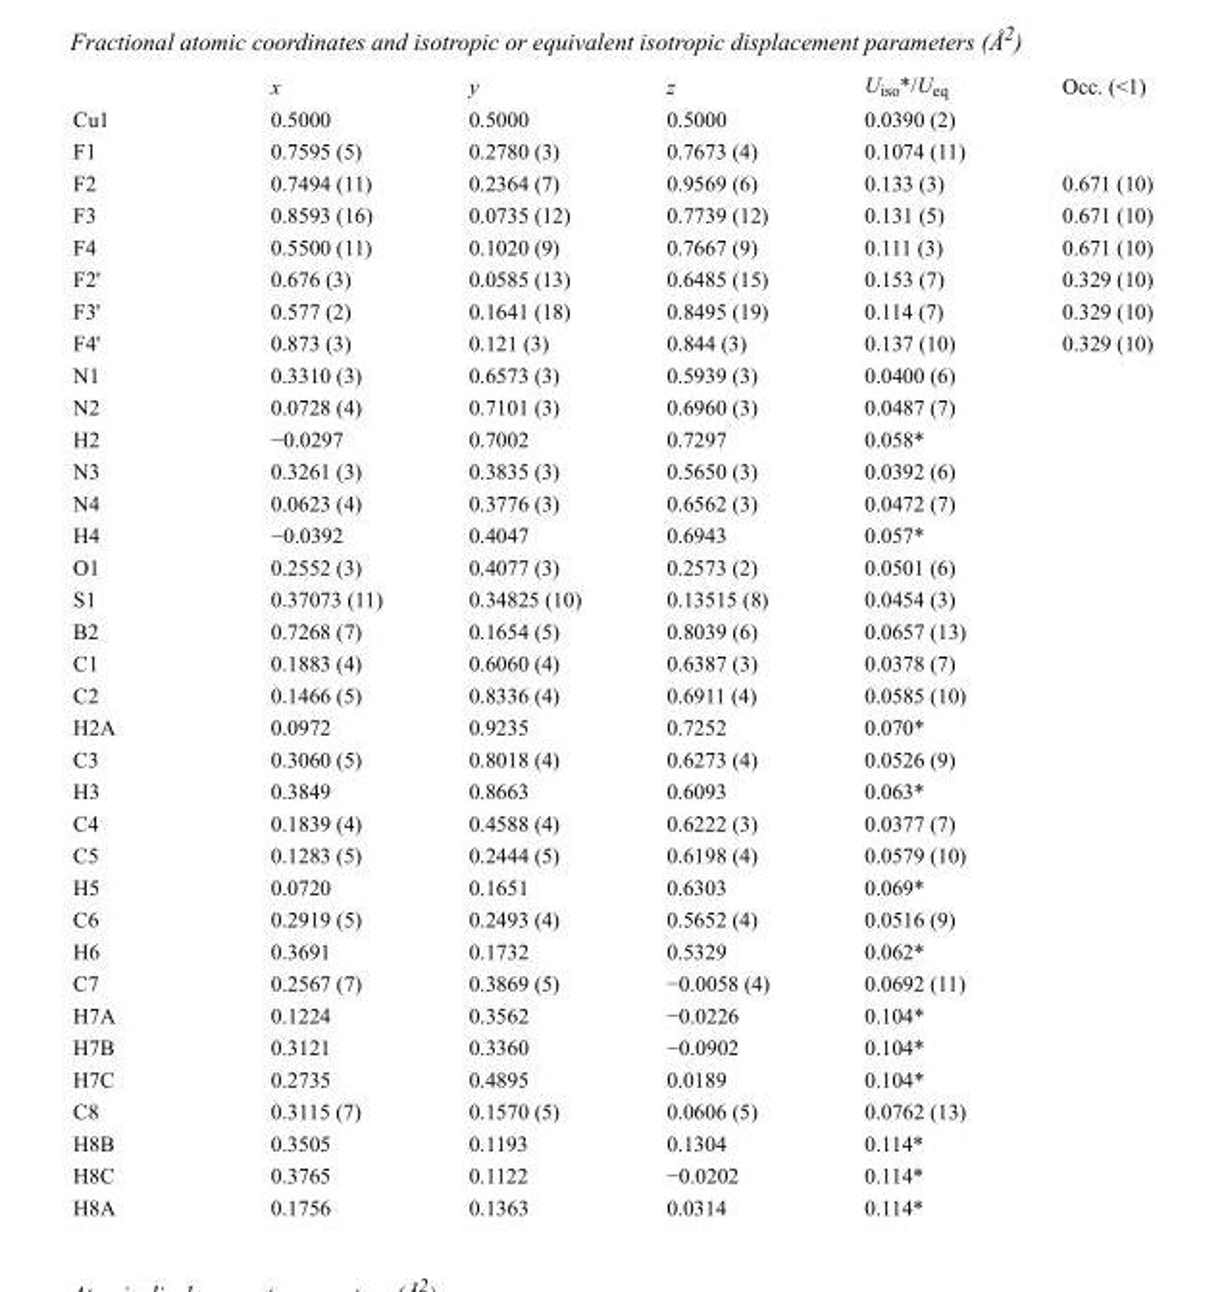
<table><thead><tr><td></td><td>x</td><td>y</td><td>z</td><td>U<sub>iso</sub>*/U<sub>eq</sub></td><td>Occ. (&lt;1)</td></tr></thead><tbody><tr><td>Cu1</td><td>0.5000</td><td>0.5000</td><td>0.5000</td><td>0.0390 (2)</td><td></td></tr><tr><td>F1</td><td>0.7595 (5)</td><td>0.2780 (3)</td><td>0.7673 (4)</td><td>0.1074 (11)</td><td></td></tr><tr><td>F2</td><td>0.7494 (11)</td><td>0.2364 (7)</td><td>0.9569 (6)</td><td>0.133 (3)</td><td>0.671 (10)</td></tr><tr><td>F3</td><td>0.8593 (16)</td><td>0.0735 (12)</td><td>0.7739 (12)</td><td>0.131 (5)</td><td>0.671 (10)</td></tr><tr><td>F4</td><td>0.5500 (11)</td><td>0.1020 (9)</td><td>0.7667 (9)</td><td>0.111 (3)</td><td>0.671 (10)</td></tr><tr><td>F2&#x27;</td><td>0.676 (3)</td><td>0.0585 (13)</td><td>0.6485 (15)</td><td>0.153 (7)</td><td>0.329 (10)</td></tr><tr><td>F3&#x27;</td><td>0.577 (2)</td><td>0.1641 (18)</td><td>0.8495 (19)</td><td>0.114 (7)</td><td>0.329 (10)</td></tr><tr><td>F4&#x27;</td><td>0.873 (3)</td><td>0.121 (3)</td><td>0.844 (3)</td><td>0.137 (10)</td><td>0.329 (10)</td></tr><tr><td>N1</td><td>0.3310 (3)</td><td>0.6573 (3)</td><td>0.5939 (3)</td><td>0.0400 (6)</td><td></td></tr><tr><td>N2</td><td>0.0728 (4)</td><td>0.7101 (3)</td><td>0.6960 (3)</td><td>0.0487 (7)</td><td></td></tr><tr><td>H2</td><td>−0.0297</td><td>0.7002</td><td>0.7297</td><td>0.058*</td><td></td></tr><tr><td>N3</td><td>0.3261 (3)</td><td>0.3835 (3)</td><td>0.5650 (3)</td><td>0.0392 (6)</td><td></td></tr><tr><td>N4</td><td>0.0623 (4)</td><td>0.3776 (3)</td><td>0.6562 (3)</td><td>0.0472 (7)</td><td></td></tr><tr><td>H4</td><td>−0.0392</td><td>0.4047</td><td>0.6943</td><td>0.057*</td><td></td></tr><tr><td>O1</td><td>0.2552 (3)</td><td>0.4077 (3)</td><td>0.2573 (2)</td><td>0.0501 (6)</td><td></td></tr><tr><td>S1</td><td>0.37073 (11)</td><td>0.34825 (10)</td><td>0.13515 (8)</td><td>0.0454 (3)</td><td></td></tr><tr><td>B2</td><td>0.7268 (7)</td><td>0.1654 (5)</td><td>0.8039 (6)</td><td>0.0657 (13)</td><td></td></tr><tr><td>C1</td><td>0.1883 (4)</td><td>0.6060 (4)</td><td>0.6387 (3)</td><td>0.0378 (7)</td><td></td></tr><tr><td>C2</td><td>0.1466 (5)</td><td>0.8336 (4)</td><td>0.6911 (4)</td><td>0.0585 (10)</td><td></td></tr><tr><td>H2A</td><td>0.0972</td><td>0.9235</td><td>0.7252</td><td>0.070*</td><td></td></tr><tr><td>C3</td><td>0.3060 (5)</td><td>0.8018 (4)</td><td>0.6273 (4)</td><td>0.0526 (9)</td><td></td></tr><tr><td>H3</td><td>0.3849</td><td>0.8663</td><td>0.6093</td><td>0.063*</td><td></td></tr><tr><td>C4</td><td>0.1839 (4)</td><td>0.4588 (4)</td><td>0.6222 (3)</td><td>0.0377 (7)</td><td></td></tr><tr><td>C5</td><td>0.1283 (5)</td><td>0.2444 (5)</td><td>0.6198 (4)</td><td>0.0579 (10)</td><td></td></tr><tr><td>H5</td><td>0.0720</td><td>0.1651</td><td>0.6303</td><td>0.069*</td><td></td></tr><tr><td>C6</td><td>0.2919 (5)</td><td>0.2493 (4)</td><td>0.5652 (4)</td><td>0.0516 (9)</td><td></td></tr><tr><td>H6</td><td>0.3691</td><td>0.1732</td><td>0.5329</td><td>0.062*</td><td></td></tr><tr><td>C7</td><td>0.2567 (7)</td><td>0.3869 (5)</td><td>−0.0058 (4)</td><td>0.0692 (11)</td><td></td></tr><tr><td>H7A</td><td>0.1224</td><td>0.3562</td><td>−0.0226</td><td>0.104*</td><td></td></tr><tr><td>H7B</td><td>0.3121</td><td>0.3360</td><td>−0.0902</td><td>0.104*</td><td></td></tr><tr><td>H7C</td><td>0.2735</td><td>0.4895</td><td>0.0189</td><td>0.104*</td><td></td></tr><tr><td>C8</td><td>0.3115 (7)</td><td>0.1570 (5)</td><td>0.0606 (5)</td><td>0.0762 (13)</td><td></td></tr><tr><td>H8B</td><td>0.3505</td><td>0.1193</td><td>0.1304</td><td>0.114*</td><td></td></tr><tr><td>H8C</td><td>0.3765</td><td>0.1122</td><td>−0.0202</td><td>0.114*</td><td></td></tr><tr><td>H8A</td><td>0.1756</td><td>0.1363</td><td>0.0314</td><td>0.114*</td><td></td></tr></tbody></table>